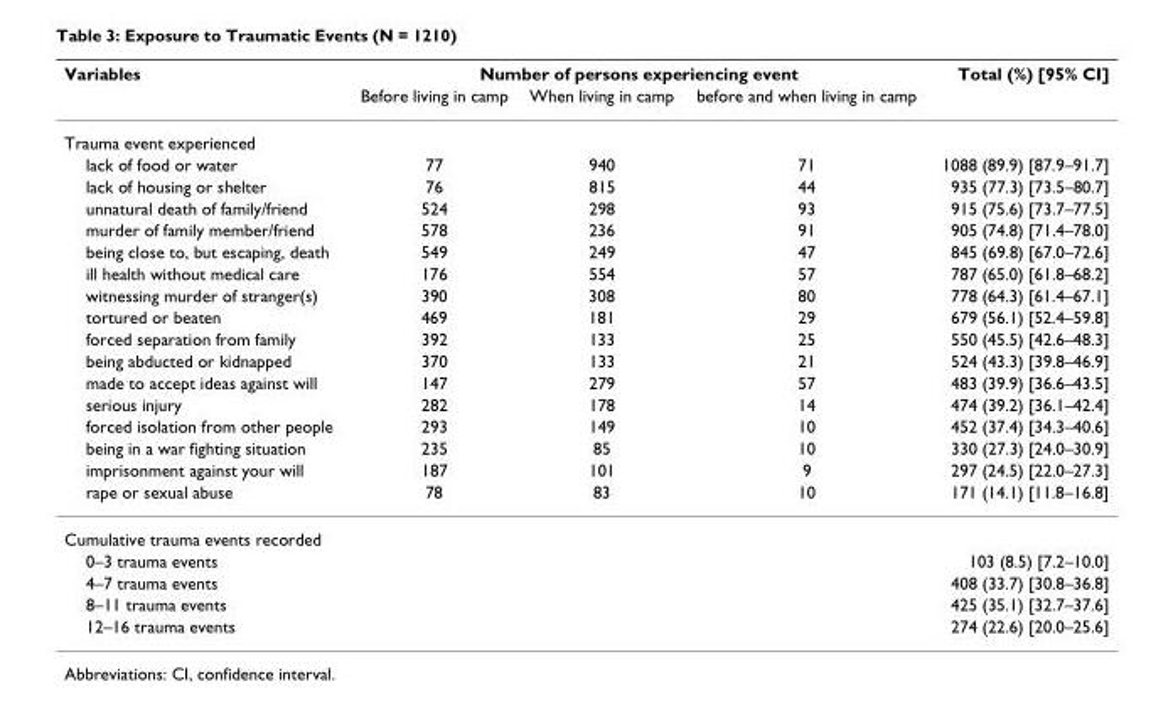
<table><thead><tr><td rowspan="2">Variables</td><td colspan="3">Number of persons experiencing event</td><td rowspan="2">Total (%) [95% CI]</td></tr><tr><td>Before living in camp</td><td>When living in camp</td><td>before and when living in camp</td></tr></thead><tbody><tr><td colspan="5">Trauma event experienced</td></tr><tr><td>lack of food or water</td><td>77</td><td>940</td><td>71</td><td>1088 (89.9) [87.9–91.7]</td></tr><tr><td>lack of housing or shelter</td><td>76</td><td>815</td><td>44</td><td>935 (77.3) [73.5–80.7]</td></tr><tr><td>unnatural death of family/friend</td><td>524</td><td>298</td><td>93</td><td>915 (75.6) [73.7–77.5]</td></tr><tr><td>murder of family member/friend</td><td>578</td><td>236</td><td>91</td><td>905 (74.8) [71.4–78.0]</td></tr><tr><td>being close to, but escaping, death</td><td>549</td><td>249</td><td>47</td><td>845 (69.8) [67.0–72.6]</td></tr><tr><td>ill health without medical care</td><td>176</td><td>554</td><td>57</td><td>787 (65.0) [61.8–68.2]</td></tr><tr><td>witnessing murder of stranger(s)</td><td>390</td><td>308</td><td>80</td><td>778 (64.3) [61.4–67.1]</td></tr><tr><td>tortured or beaten</td><td>469</td><td>181</td><td>29</td><td>679 (56.1) [52.4–59.8]</td></tr><tr><td>forced separation from family</td><td>392</td><td>133</td><td>25</td><td>550 (45.5) [42.6–48.3]</td></tr><tr><td>being abducted or kidnapped</td><td>370</td><td>133</td><td>21</td><td>524 (43.3) [39.8–46.9]</td></tr><tr><td>made to accept ideas against will</td><td>147</td><td>279</td><td>57</td><td>483 (39.9) [36.6–43.5]</td></tr><tr><td>serious injury</td><td>282</td><td>178</td><td>14</td><td>474 (39.2) [36.1–42.4]</td></tr><tr><td>forced isolation from other people</td><td>293</td><td>149</td><td>10</td><td>452 (37.4) [34.3–40.6]</td></tr><tr><td>being in a war fighting situation</td><td>235</td><td>85</td><td>10</td><td>330 (27.3) [24.0–30.9]</td></tr><tr><td>imprisonment against your will</td><td>187</td><td>101</td><td>9</td><td>297 (24.5) [22.0–27.3]</td></tr><tr><td>rape or sexual abuse</td><td>78</td><td>83</td><td>10</td><td>171 (14.1) [11.8–16.8]</td></tr><tr><td colspan="5">Cumulative trauma events recorded</td></tr><tr><td>0–3 trauma events</td><td></td><td></td><td></td><td>103 (8.5) [7.2–10.0]</td></tr><tr><td>4–7 trauma events</td><td></td><td></td><td></td><td>408 (33.7) [30.8–36.8]</td></tr><tr><td>8–11 trauma events</td><td></td><td></td><td></td><td>425 (35.1) [32.7–37.6]</td></tr><tr><td>12–16 trauma events</td><td></td><td></td><td></td><td>274 (22.6) [20.0–25.6]</td></tr></tbody></table>